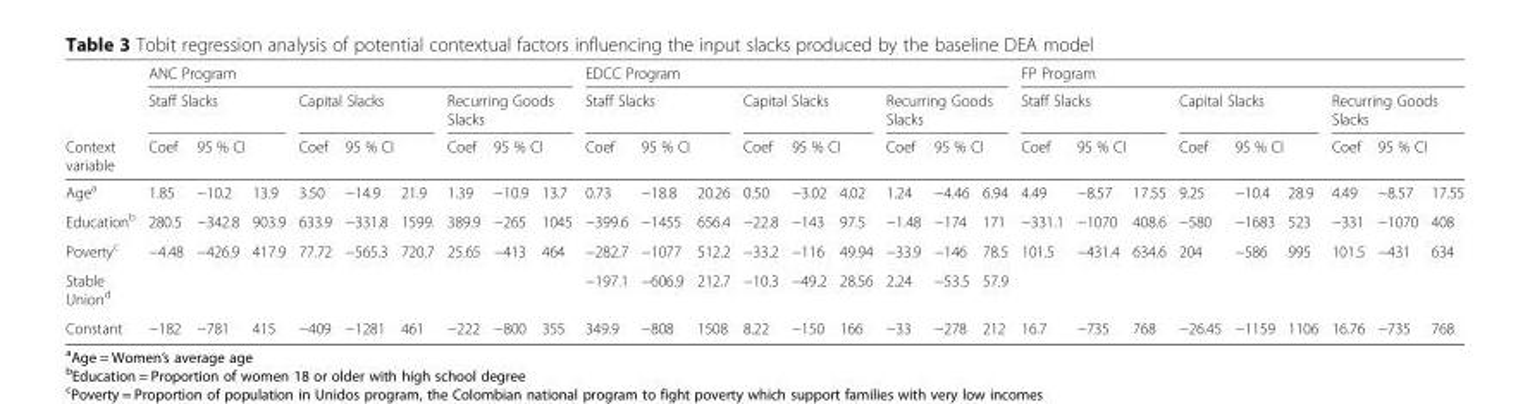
<table><thead><tr><td rowspan="4">Context variable Age<sup>a</sup></td><td colspan="9">ANC Program</td><td colspan="9">EDCC Program</td><td colspan="9">FP Program</td></tr><tr><td colspan="3">Staff Slacks</td><td colspan="3">Capital Slacks</td><td colspan="3">Recurring Goods Slacks</td><td colspan="3">Staff Slacks</td><td colspan="3">Capital Slacks</td><td colspan="3">Recurring Goods Slacks</td><td colspan="3">Staff Slacks</td><td colspan="3">Capital Slacks</td><td colspan="3">Recurring Goods Slacks</td></tr><tr><td rowspan="2">Coef 1.85</td><td colspan="2">95 % CI</td><td rowspan="2">Coef 3.50</td><td colspan="2">95 % CI</td><td rowspan="2">Coef 1.39</td><td colspan="2">95 % CI</td><td rowspan="2">Coef 0.73</td><td colspan="2">95 % CI</td><td rowspan="2">Coef 0.50</td><td colspan="2">95 % CI</td><td rowspan="2">Coef 1.24</td><td colspan="2">95 % CI</td><td rowspan="2">Coef 4.49</td><td colspan="2">95 % CI</td><td rowspan="2">Coef 9.25</td><td colspan="2">95 % CI</td><td rowspan="2">Coef 4.49</td><td colspan="2">95 % CI</td></tr><tr><td>−10.2</td><td>13.9</td><td>−14.9</td><td>21.9</td><td>−10.9</td><td>13.7</td><td>−18.8</td><td>20.26</td><td>−3.02</td><td>4.02</td><td>−4.46</td><td>6.94</td><td>−8.57</td><td>17.55</td><td>−10.4</td><td>28.9</td><td>−8.57</td><td>17.55</td></tr></thead><tbody><tr><td>Education<sup>b</sup></td><td>280.5</td><td>−342.8</td><td>903.9</td><td>633.9</td><td>−331.8</td><td>1599.</td><td>389.9</td><td>−265</td><td>1045</td><td>−399.6</td><td>−1455</td><td>656.4</td><td>−22.8</td><td>−143</td><td>97.5</td><td>−1.48</td><td>−174</td><td>171</td><td>−331.1</td><td>−1070</td><td>408.6</td><td>−580</td><td>−1683</td><td>523</td><td>−331</td><td>−1070</td><td>408</td></tr><tr><td>Poverty<sup>c</sup></td><td>−4.48</td><td>−426.9</td><td>417.9</td><td>77.72</td><td>−565.3</td><td>720.7</td><td>25.65</td><td>−413</td><td>464</td><td>−282.7</td><td>−1077</td><td>512.2</td><td>−33.2</td><td>−116</td><td>49.94</td><td>−33.9</td><td>−146</td><td>78.5</td><td>101.5</td><td>−431.4</td><td>634.6</td><td>204</td><td>−586</td><td>995</td><td>101.5</td><td>−431</td><td>634</td></tr><tr><td>Stable Union<sup>d</sup></td><td></td><td></td><td></td><td></td><td></td><td></td><td></td><td></td><td></td><td>−197.1</td><td>−606.9</td><td>212.7</td><td>−10.3</td><td>−49.2</td><td>28.56</td><td>2.24</td><td>−53.5</td><td>57.9</td><td></td><td></td><td></td><td></td><td></td><td></td><td></td><td></td><td></td></tr><tr><td>Constant</td><td>−182</td><td>−781</td><td>415</td><td>−409</td><td>−1281</td><td>461</td><td>−222</td><td>−800</td><td>355</td><td>349.9</td><td>−808</td><td>1508</td><td>8.22</td><td>−150</td><td>166</td><td>−33</td><td>−278</td><td>212</td><td>16.7</td><td>−735</td><td>768</td><td>−26.45</td><td>−1159</td><td>1106</td><td>16.76</td><td>−735</td><td>768</td></tr></tbody></table>